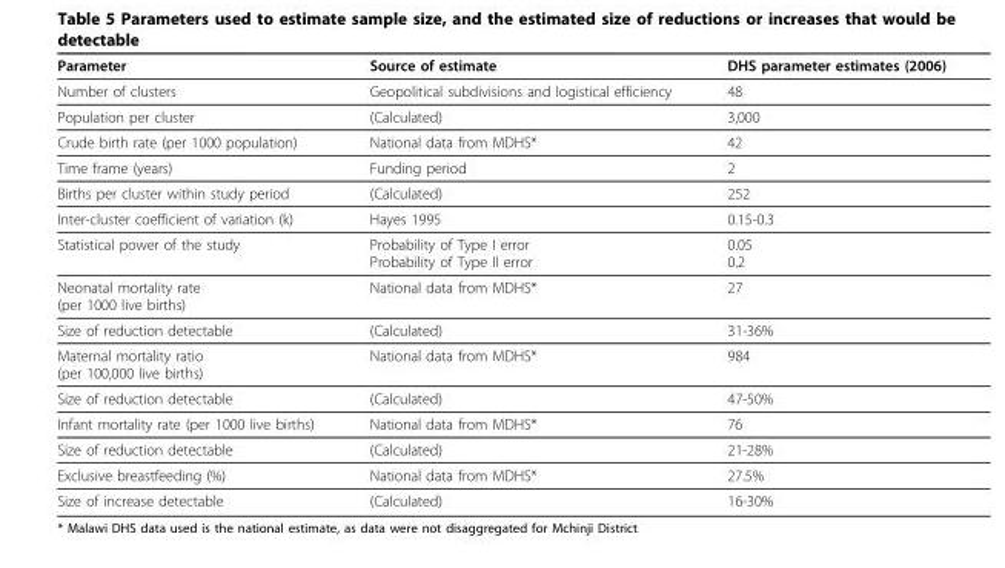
<table><thead><tr><td>Parameter</td><td>Source of estimate</td><td>DHS parameter estimates (2006)</td></tr></thead><tbody><tr><td>Number of clusters</td><td>Geopolitical subdivisions and logistical efficiency</td><td>48</td></tr><tr><td>Population per cluster</td><td>(Calculated)</td><td>3,000</td></tr><tr><td>Crude birth rate (per 1000 population)</td><td>National data from MDHS*</td><td>42</td></tr><tr><td>Time frame (years)</td><td>Funding period</td><td>2</td></tr><tr><td>Births per cluster within study period</td><td>(Calculated)</td><td>252</td></tr><tr><td>Inter-cluster coefficient of variation (k)</td><td>Hayes 1995</td><td>0.15-0.3</td></tr><tr><td>Statistical power of the study</td><td>Probability of Type I error Probability of Type II error</td><td>0.05 0.2</td></tr><tr><td>Neonatal mortality rate (per 1000 live births)</td><td>National data from MDHS*</td><td>27</td></tr><tr><td>Size of reduction detectable</td><td>(Calculated)</td><td>31-36%</td></tr><tr><td>Maternal mortality ratio (per 100,000 live births)</td><td>National data from MDHS*</td><td>984</td></tr><tr><td>Size of reduction detectable</td><td>(Calculated)</td><td>47-50%</td></tr><tr><td>Infant mortality rate (per 1000 live births)</td><td>National data from MDHS*</td><td>76</td></tr><tr><td>Size of reduction detectable</td><td>(Calculated)</td><td>21-28%</td></tr><tr><td>Exclusive breastfeeding (%)</td><td>National data from MDHS*</td><td>27.5%</td></tr><tr><td>Size of increase detectable</td><td>(Calculated)</td><td>16-30%</td></tr></tbody></table>